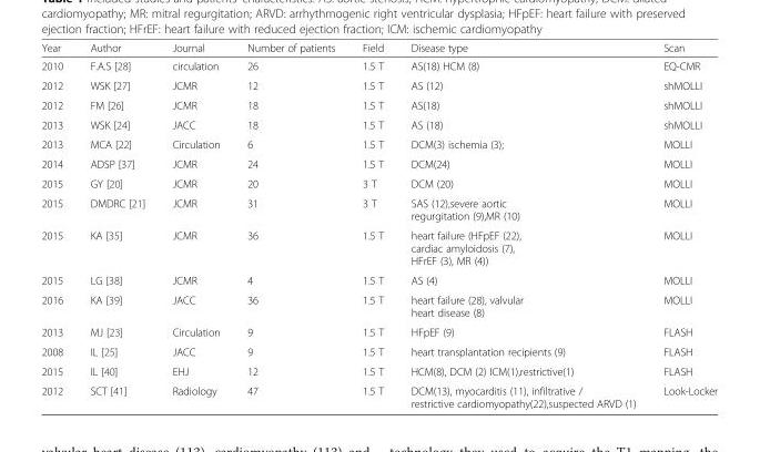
<table><thead><tr><td>Year</td><td>Author</td><td>Journal</td><td>Number of patients</td><td>Field</td><td>Disease type</td><td>Scan</td></tr></thead><tbody><tr><td>2010</td><td>F.A.S [28]</td><td>circulation</td><td>26</td><td>1.5 T</td><td>AS(18) HCM (8)</td><td>EQ-CMR</td></tr><tr><td>2012</td><td>WSK [27]</td><td>JCMR</td><td>12</td><td>1.5 T</td><td>AS (12)</td><td>shMOLLI</td></tr><tr><td>2012</td><td>FM [26]</td><td>JCMR</td><td>18</td><td>1.5 T</td><td>AS(18)</td><td>shMOLLI</td></tr><tr><td>2013</td><td>WSK [24]</td><td>JACC</td><td>18</td><td>1.5 T</td><td>AS (18)</td><td>shMOLLI</td></tr><tr><td>2013</td><td>MCA [22]</td><td>Circulation</td><td>6</td><td>1.5 T</td><td>DCM(3) ischemia (3);</td><td>MOLLI</td></tr><tr><td>2014</td><td>ADSP [37]</td><td>JCMR</td><td>24</td><td>1.5 T</td><td>DCM(24)</td><td>MOLLI</td></tr><tr><td>2015</td><td>GY [20]</td><td>JCMR</td><td>20</td><td>3 T</td><td>DCM (20)</td><td>MOLLI</td></tr><tr><td>2015</td><td>DMDRC [21]</td><td>JCMR</td><td>31</td><td>3 T</td><td>SAS (12),severe aortic regurgitation (9),MR (10)</td><td>MOLLI</td></tr><tr><td>2015</td><td>KA [35]</td><td>JCMR</td><td>36</td><td>1.5 T</td><td>heart failure (HFpEF (22), cardiac amyloidosis (7), HFrEF (3), MR (4))</td><td>MOLLI</td></tr><tr><td>2015</td><td>LG [38]</td><td>JCMR</td><td>4</td><td>1.5 T</td><td>AS (4)</td><td>MOLLI</td></tr><tr><td>2016</td><td>KA [39]</td><td>JACC</td><td>36</td><td>1.5 T</td><td>heart failure (28), valvular heart disease (8)</td><td>MOLLI</td></tr><tr><td>2013</td><td>MJ [23]</td><td>Circulation</td><td>9</td><td>1.5 T</td><td>HFpEF (9)</td><td>FLASH</td></tr><tr><td>2008</td><td>IL [25]</td><td>JACC</td><td>9</td><td>1.5 T</td><td>heart transplantation recipients (9)</td><td>FLASH</td></tr><tr><td>2015</td><td>IL [40]</td><td>EHJ</td><td>12</td><td>1.5 T</td><td>HCM(8), DCM (2) ICM(1),restrictive(1)</td><td>FLASH</td></tr><tr><td>2012</td><td>SCT [41]</td><td>Radiology</td><td>47</td><td>1.5 T</td><td>DCM(13), myocarditis (11), infiltrative / restrictive cardiomyopathy(22),suspected ARVD (1)</td><td>Look-Locker</td></tr></tbody></table>